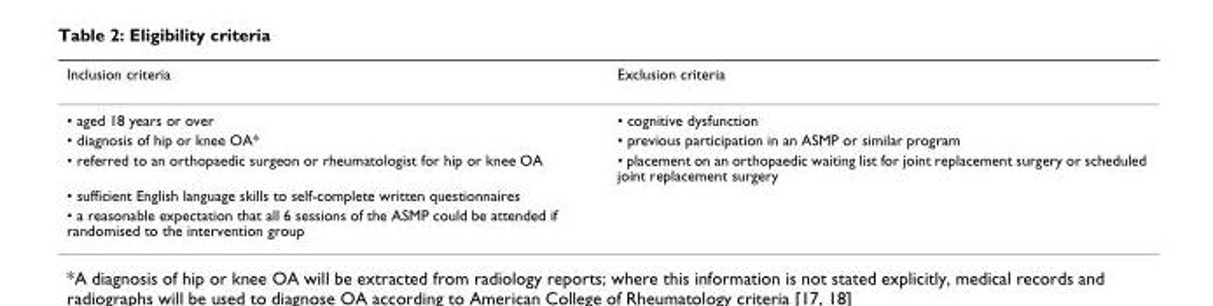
<table><thead><tr><td>Inclusion criteria</td><td>Exclusion criteria</td></tr></thead><tbody><tr><td>• aged 18 years or over</td><td>• cognitive dysfunction</td></tr><tr><td>• diagnosis of hip or knee OA*</td><td>• previous participation in an ASMP or similar program</td></tr><tr><td>• referred to an orthopaedic surgeon or rheumatologist for hip or knee OA</td><td>• placement on an orthopaedic waiting list for joint replacement surgery or scheduled joint replacement surgery</td></tr><tr><td colspan="2">• sufficient English language skills to self-complete written questionnaires</td></tr><tr><td>• a reasonable expectation that all 6 sessions of the ASMP could be attended if randomised to the intervention group</td><td></td></tr></tbody></table>